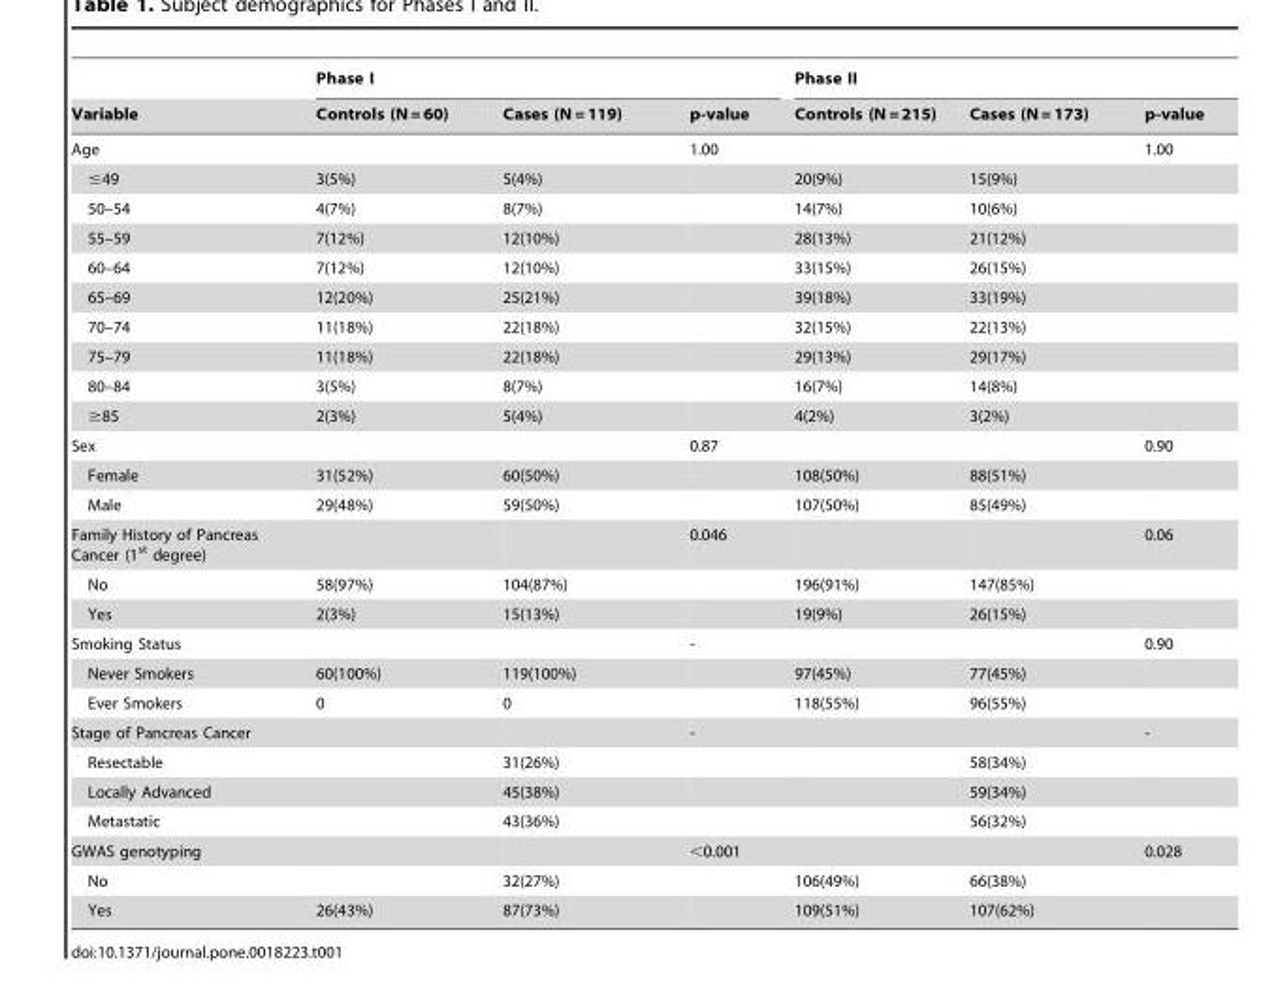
<table><thead><tr><td rowspan="2">Variable</td><td colspan="3">Phase I</td><td colspan="3">Phase II</td></tr><tr><td>Controls (N = 60)</td><td>Cases (N = 119)</td><td>p-value</td><td>Controls (N = 215)</td><td>Cases (N = 173)</td><td>p-value</td></tr></thead><tbody><tr><td>Age</td><td></td><td></td><td>1.00</td><td></td><td></td><td>1.00</td></tr><tr><td>≤49</td><td>3(5%)</td><td>5(4%)</td><td></td><td>20(9%)</td><td>15(9%)</td><td></td></tr><tr><td>50–54</td><td>4(7%)</td><td>8(7%)</td><td></td><td>14(7%)</td><td>10(6%)</td><td></td></tr><tr><td>55–59</td><td>7(12%)</td><td>12(10%)</td><td></td><td>28(13%)</td><td>21(12%)</td><td></td></tr><tr><td>60–64</td><td>7(12%)</td><td>12(10%)</td><td></td><td>33(15%)</td><td>26(15%)</td><td></td></tr><tr><td>65–69</td><td>12(20%)</td><td>25(21%)</td><td></td><td>39(18%)</td><td>33(19%)</td><td></td></tr><tr><td>70–74</td><td>11(18%)</td><td>22(18%)</td><td></td><td>32(15%)</td><td>22(13%)</td><td></td></tr><tr><td>75–79</td><td>11(18%)</td><td>22(18%)</td><td></td><td>29(13%)</td><td>29(17%)</td><td></td></tr><tr><td>80–84</td><td>3(5%)</td><td>8(7%)</td><td></td><td>16(7%)</td><td>14(8%)</td><td></td></tr><tr><td>≥85</td><td>2(3%)</td><td>5(4%)</td><td></td><td>4(2%)</td><td>3(2%)</td><td></td></tr><tr><td>Sex</td><td></td><td></td><td>0.87</td><td></td><td></td><td>0.90</td></tr><tr><td>Female</td><td>31(52%)</td><td>60(50%)</td><td></td><td>108(50%)</td><td>88(51%)</td><td></td></tr><tr><td>Male</td><td>29(48%)</td><td>59(50%)</td><td></td><td>107(50%)</td><td>85(49%)</td><td></td></tr><tr><td>Family History of Pancreas Cancer (1<sup>st</sup> degree)</td><td></td><td></td><td>0.046</td><td></td><td></td><td>0.06</td></tr><tr><td>No</td><td>58(97%)</td><td>104(87%)</td><td></td><td>196(91%)</td><td>147(85%)</td><td></td></tr><tr><td>Yes</td><td>2(3%)</td><td>15(13%)</td><td></td><td>19(9%)</td><td>26(15%)</td><td></td></tr><tr><td>Smoking Status</td><td></td><td></td><td>-</td><td></td><td></td><td>0.90</td></tr><tr><td>Never Smokers</td><td>60(100%)</td><td>119(100%)</td><td></td><td>97(45%)</td><td>77(45%)</td><td></td></tr><tr><td>Ever Smokers</td><td>0</td><td>0</td><td></td><td>118(55%)</td><td>96(55%)</td><td></td></tr><tr><td>Stage of Pancreas Cancer</td><td></td><td></td><td>-</td><td></td><td></td><td>-</td></tr><tr><td>Resectable</td><td></td><td>31(26%)</td><td></td><td></td><td>58(34%)</td><td></td></tr><tr><td>Locally Advanced</td><td></td><td>45(38%)</td><td></td><td></td><td>59(34%)</td><td></td></tr><tr><td>Metastatic</td><td></td><td>43(36%)</td><td></td><td></td><td>56(32%)</td><td></td></tr><tr><td>GWAS genotyping</td><td></td><td></td><td>&lt;0.001</td><td></td><td></td><td>0.028</td></tr><tr><td>No</td><td></td><td>32(27%)</td><td></td><td>106(49%)</td><td>66(38%)</td><td></td></tr><tr><td>Yes</td><td>26(43%)</td><td>87(73%)</td><td></td><td>109(51%)</td><td>107(62%)</td><td></td></tr></tbody></table>